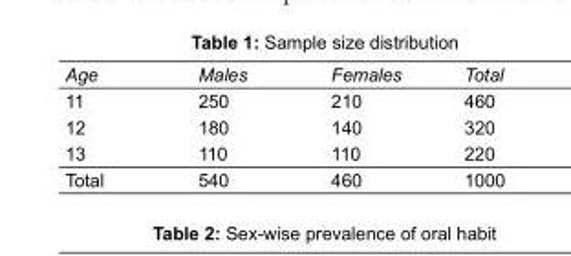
<table><tbody><tr><td>Age</td><td>Males</td><td>Females</td><td>Total</td></tr><tr><td>11</td><td>250</td><td>210</td><td>460</td></tr><tr><td>12</td><td>180</td><td>140</td><td>320</td></tr><tr><td>13</td><td>110</td><td>110</td><td>220</td></tr><tr><td>Total</td><td>540</td><td>460</td><td>1000</td></tr></tbody></table>